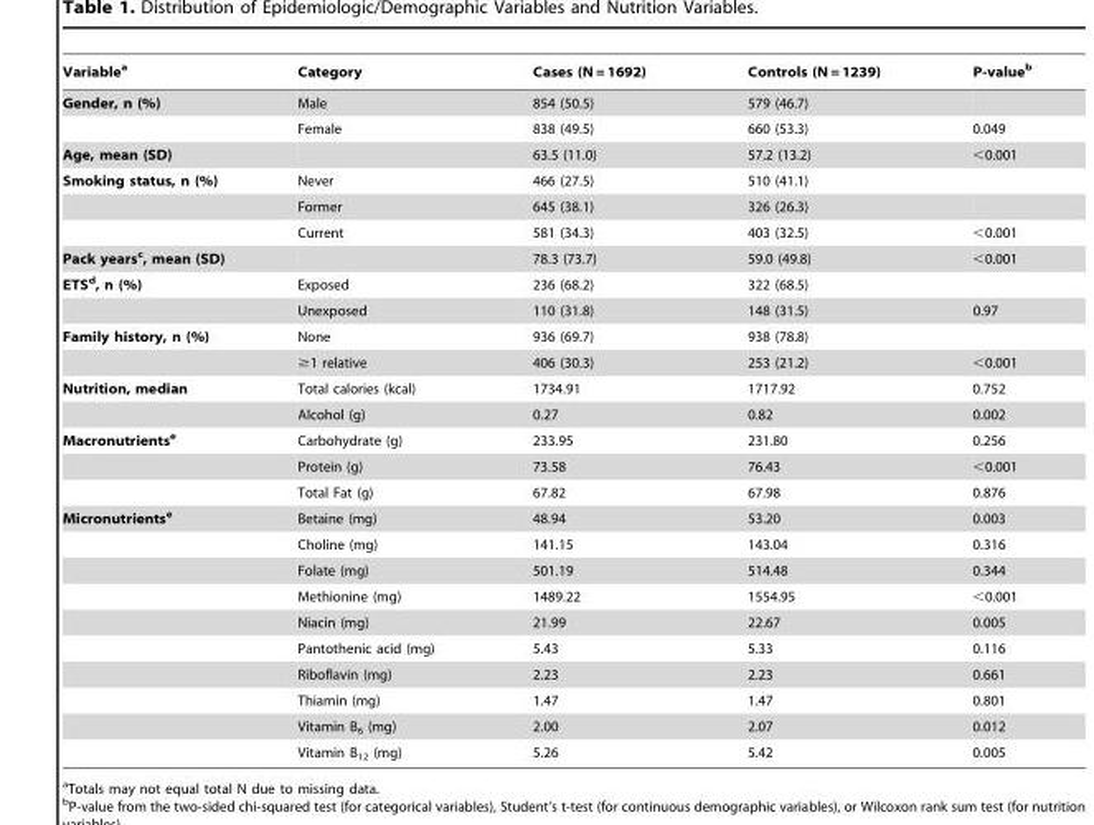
<table><thead><tr><td>Variable<sup>a</sup></td><td>Category</td><td>Cases (N = 1692)</td><td>Controls (N = 1239)</td><td>P-value<sup>b</sup></td></tr></thead><tbody><tr><td rowspan="2">Gender, n (%)</td><td>Male</td><td>854 (50.5)</td><td>579 (46.7)</td><td></td></tr><tr><td>Female</td><td>838 (49.5)</td><td>660 (53.3)</td><td>0.049</td></tr><tr><td>Age, mean (SD)</td><td></td><td>63.5 (11.0)</td><td>57.2 (13.2)</td><td>&lt;0.001</td></tr><tr><td rowspan="3">Smoking status, n (%)</td><td>Never</td><td>466 (27.5)</td><td>510 (41.1)</td><td></td></tr><tr><td>Former</td><td>645 (38.1)</td><td>326 (26.3)</td><td></td></tr><tr><td>Current</td><td>581 (34.3)</td><td>403 (32.5)</td><td>&lt;0.001</td></tr><tr><td>Pack yearsc, mean (SD)</td><td></td><td>78.3 (73.7)</td><td>59.0 (49.8)</td><td>&lt;0.001</td></tr><tr><td rowspan="2">ETSd, n (%)</td><td>Exposed</td><td>236 (68.2)</td><td>322 (68.5)</td><td></td></tr><tr><td>Unexposed</td><td>110 (31.8)</td><td>148 (31.5)</td><td>0.97</td></tr><tr><td rowspan="2">Family history, n (%)</td><td>None</td><td>936 (69.7)</td><td>938 (78.8)</td><td></td></tr><tr><td>≥1 relative</td><td>406 (30.3)</td><td>253 (21.2)</td><td>&lt;0.001</td></tr><tr><td rowspan="2">Nutrition, median</td><td>Total calories (kcal)</td><td>1734.91</td><td>1717.92</td><td>0.752</td></tr><tr><td>Alcohol (g)</td><td>0.27</td><td>0.82</td><td>0.002</td></tr><tr><td rowspan="3">Macronutrientse</td><td>Carbohydrate (g)</td><td>233.95</td><td>231.80</td><td>0.256</td></tr><tr><td>Protein (g)</td><td>73.58</td><td>76.43</td><td>&lt;0.001</td></tr><tr><td>Total Fat (g)</td><td>67.82</td><td>67.98</td><td>0.876</td></tr><tr><td rowspan="10">Micronutrientse</td><td>Betaine (mg)</td><td>48.94</td><td>53.20</td><td>0.003</td></tr><tr><td>Choline (mg)</td><td>141.15</td><td>143.04</td><td>0.316</td></tr><tr><td>Folate (mg)</td><td>501.19</td><td>514.48</td><td>0.344</td></tr><tr><td>Methionine (mg)</td><td>1489.22</td><td>1554.95</td><td>&lt;0.001</td></tr><tr><td>Niacin (mg)</td><td>21.99</td><td>22.67</td><td>0.005</td></tr><tr><td>Pantothenic acid (mg)</td><td>5.43</td><td>5.33</td><td>0.116</td></tr><tr><td>Riboflavin (mg)</td><td>2.23</td><td>2.23</td><td>0.661</td></tr><tr><td>Thiamin (mg)</td><td>1.47</td><td>1.47</td><td>0.801</td></tr><tr><td>Vitamin B<sub>6</sub> (mg)</td><td>2.00</td><td>2.07</td><td>0.012</td></tr><tr><td>Vitamin B<sub>12</sub> (mg)</td><td>5.26</td><td>5.42</td><td>0.005</td></tr></tbody></table>